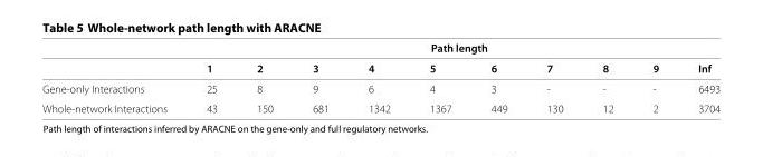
<table><thead><tr><td rowspan="2"></td><td colspan="10">Path length</td></tr><tr><td>1</td><td>2</td><td>3</td><td>4</td><td>5</td><td>6</td><td>7</td><td>8</td><td>9</td><td>Inf</td></tr></thead><tbody><tr><td>Gene-only Interactions</td><td>25</td><td>8</td><td>9</td><td>6</td><td>4</td><td>3</td><td>-</td><td>-</td><td>-</td><td>6493</td></tr><tr><td>Whole-network Interactions</td><td>43</td><td>150</td><td>681</td><td>1342</td><td>1367</td><td>449</td><td>130</td><td>12</td><td>2</td><td>3704</td></tr></tbody></table>